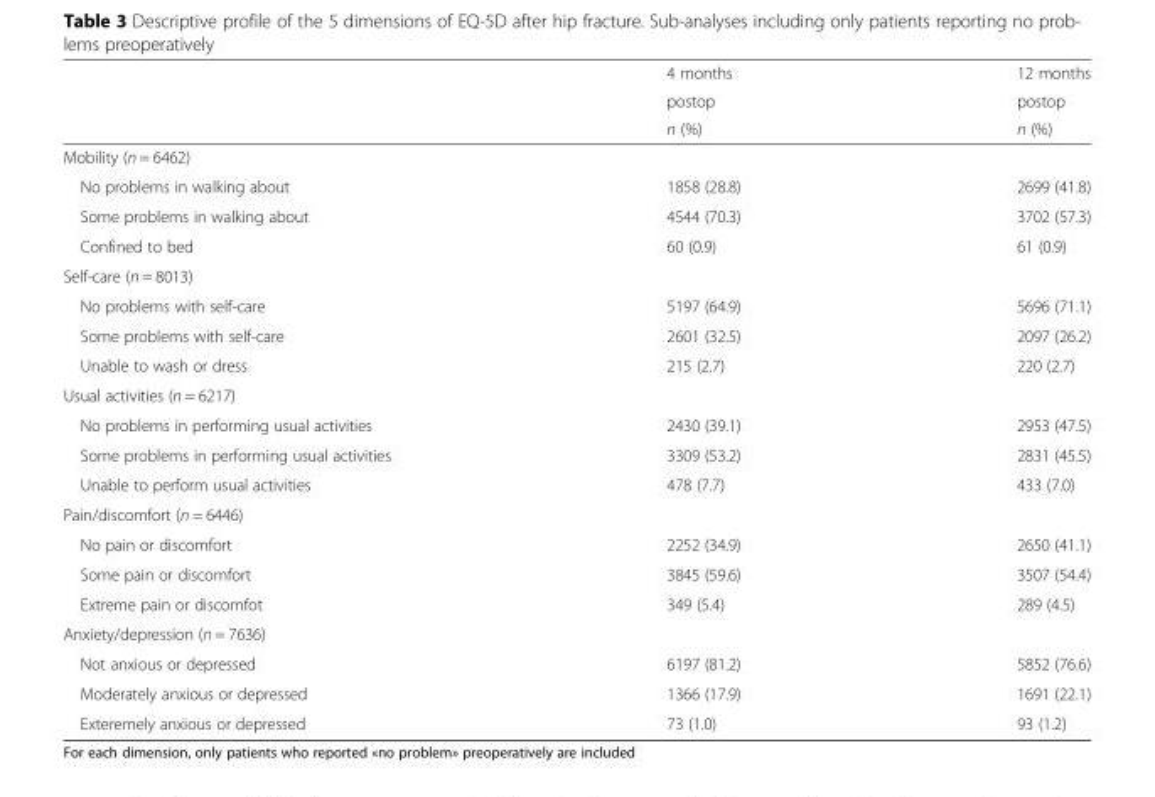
<table><thead><tr><td rowspan="3"></td><td rowspan="3">4 months postop n (%)</td><td rowspan="3">12 months postop n (%)</td></tr><tr></tr><tr></tr></thead><tbody><tr><td colspan="3">Mobility (n = 6462)</td></tr><tr><td>No problems in walking about</td><td>1858 (28.8)</td><td>2699 (41.8)</td></tr><tr><td>Some problems in walking about</td><td>4544 (70.3)</td><td>3702 (57.3)</td></tr><tr><td>Confined to bed</td><td>60 (0.9)</td><td>61 (0.9)</td></tr><tr><td colspan="3">Self-care (n = 8013)</td></tr><tr><td>No problems with self-care</td><td>5197 (64.9)</td><td>5696 (71.1)</td></tr><tr><td>Some problems with self-care</td><td>2601 (32.5)</td><td>2097 (26.2)</td></tr><tr><td>Unable to wash or dress</td><td>215 (2.7)</td><td>220 (2.7)</td></tr><tr><td colspan="3">Usual activities (n = 6217)</td></tr><tr><td>No problems in performing usual activities</td><td>2430 (39.1)</td><td>2953 (47.5)</td></tr><tr><td>Some problems in performing usual activities</td><td>3309 (53.2)</td><td>2831 (45.5)</td></tr><tr><td>Unable to perform usual activities</td><td>478 (7.7)</td><td>433 (7.0)</td></tr><tr><td colspan="3">Pain/discomfort (n = 6446)</td></tr><tr><td>No pain or discomfort</td><td>2252 (34.9)</td><td>2650 (41.1)</td></tr><tr><td>Some pain or discomfort</td><td>3845 (59.6)</td><td>3507 (54.4)</td></tr><tr><td>Extreme pain or discomfot</td><td>349 (5.4)</td><td>289 (4.5)</td></tr><tr><td colspan="3">Anxiety/depression (n = 7636)</td></tr><tr><td>Not anxious or depressed</td><td>6197 (81.2)</td><td>5852 (76.6)</td></tr><tr><td>Moderately anxious or depressed</td><td>1366 (17.9)</td><td>1691 (22.1)</td></tr><tr><td>Exteremely anxious or depressed</td><td>73 (1.0)</td><td>93 (1.2)</td></tr></tbody></table>